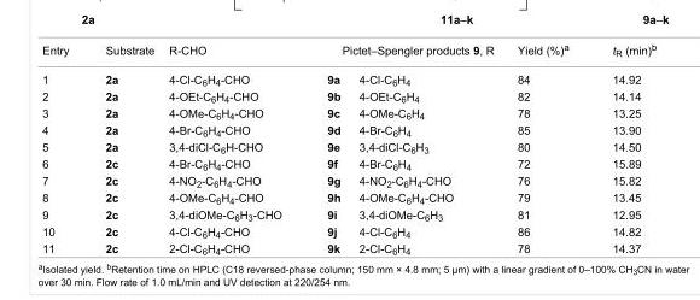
<table><tbody><tr><td>Entry</td><td>Substrate</td><td>R-CHO</td><td colspan="2">Pictet–Spengler products 9, R</td><td>Yield (%)<sup>a</sup></td><td>t<sub>R</sub> (min)<sup>b</sup></td></tr><tr><td>1</td><td>2a</td><td>4-Cl-C<sub>6</sub>H<sub>4</sub>-CHO</td><td>9a</td><td>4-Cl-C<sub>6</sub>H<sub>4</sub></td><td>84</td><td>14.92</td></tr><tr><td>2</td><td>2a</td><td>4-OEt-C<sub>6</sub>H<sub>4</sub>-CHO</td><td>9b</td><td>4-OEt-C<sub>6</sub>H<sub>4</sub></td><td>82</td><td>14.14</td></tr><tr><td>3</td><td>2a</td><td>4-OMe-C<sub>6</sub>H<sub>4</sub>-CHO</td><td>9c</td><td>4-OMe-C<sub>6</sub>H<sub>4</sub></td><td>78</td><td>13.25</td></tr><tr><td>4</td><td>2a</td><td>4-Br-C<sub>6</sub>H<sub>4</sub>-CHO</td><td>9d</td><td>4-Br-C<sub>6</sub>H<sub>4</sub></td><td>85</td><td>13.90</td></tr><tr><td>5</td><td>2a</td><td>3,4-diCl-C<sub>6</sub>H-CHO</td><td>9e</td><td>3,4-diCl-C<sub>6</sub>H<sub>3</sub></td><td>80</td><td>14.50</td></tr><tr><td>6</td><td>2c</td><td>4-Br-C<sub>6</sub>H<sub>4</sub>-CHO</td><td>9f</td><td>4-Br-C<sub>6</sub>H<sub>4</sub></td><td>72</td><td>15.89</td></tr><tr><td>7</td><td>2c</td><td>4-NO<sub>2</sub>-C<sub>6</sub>H<sub>4</sub>-CHO</td><td>9g</td><td>4-NO<sub>2</sub>-C<sub>6</sub>H<sub>4</sub>-CHO</td><td>76</td><td>15.82</td></tr><tr><td>8</td><td>2c</td><td>4-OMe-C<sub>6</sub>H<sub>4</sub>-CHO</td><td>9h</td><td>4-OMe-C<sub>6</sub>H<sub>4</sub>-CHO</td><td>79</td><td>13.45</td></tr><tr><td>9</td><td>2c</td><td>3,4-diOMe-C<sub>6</sub>H<sub>3</sub>-CHO</td><td>9i</td><td>3,4-diOMe-C<sub>6</sub>H<sub>3</sub></td><td>81</td><td>12.95</td></tr><tr><td>10</td><td>2c</td><td>4-Cl-C<sub>6</sub>H<sub>4</sub>-CHO</td><td>9j</td><td>4-Cl-C<sub>6</sub>H<sub>4</sub></td><td>86</td><td>14.82</td></tr><tr><td>11</td><td>2c</td><td>2-Cl-C<sub>6</sub>H<sub>4</sub>-CHO</td><td>9k</td><td>2-Cl-C<sub>6</sub>H<sub>4</sub></td><td>78</td><td>14.37</td></tr></tbody></table>